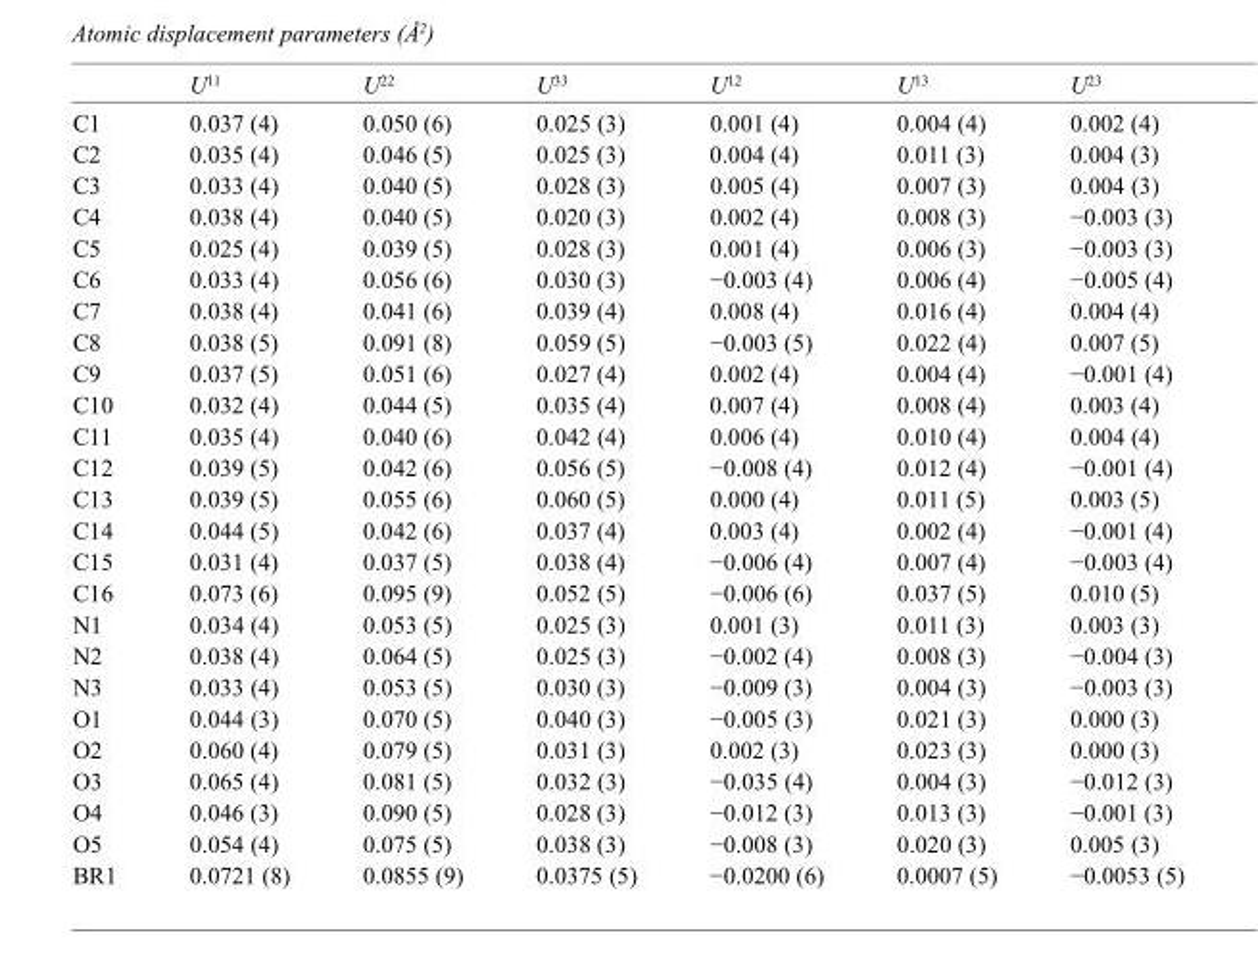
<table><thead><tr><td></td><td>U<sup>11</sup></td><td>U<sup>22</sup></td><td>U<sup>33</sup></td><td>U<sup>12</sup></td><td>U<sup>13</sup></td><td>U<sup>23</sup></td></tr></thead><tbody><tr><td>C1</td><td>0.037 (4)</td><td>0.050 (6)</td><td>0.025 (3)</td><td>0.001 (4)</td><td>0.004 (4)</td><td>0.002 (4)</td></tr><tr><td>C2</td><td>0.035 (4)</td><td>0.046 (5)</td><td>0.025 (3)</td><td>0.004 (4)</td><td>0.011 (3)</td><td>0.004 (3)</td></tr><tr><td>C3</td><td>0.033 (4)</td><td>0.040 (5)</td><td>0.028 (3)</td><td>0.005 (4)</td><td>0.007 (3)</td><td>0.004 (3)</td></tr><tr><td>C4</td><td>0.038 (4)</td><td>0.040 (5)</td><td>0.020 (3)</td><td>0.002 (4)</td><td>0.008 (3)</td><td>−0.003 (3)</td></tr><tr><td>C5</td><td>0.025 (4)</td><td>0.039 (5)</td><td>0.028 (3)</td><td>0.001 (4)</td><td>0.006 (3)</td><td>−0.003 (3)</td></tr><tr><td>C6</td><td>0.033 (4)</td><td>0.056 (6)</td><td>0.030 (3)</td><td>−0.003 (4)</td><td>0.006 (4)</td><td>−0.005 (4)</td></tr><tr><td>C7</td><td>0.038 (4)</td><td>0.041 (6)</td><td>0.039 (4)</td><td>0.008 (4)</td><td>0.016 (4)</td><td>0.004 (4)</td></tr><tr><td>C8</td><td>0.038 (5)</td><td>0.091 (8)</td><td>0.059 (5)</td><td>−0.003 (5)</td><td>0.022 (4)</td><td>0.007 (5)</td></tr><tr><td>C9</td><td>0.037 (5)</td><td>0.051 (6)</td><td>0.027 (4)</td><td>0.002 (4)</td><td>0.004 (4)</td><td>−0.001 (4)</td></tr><tr><td>C10</td><td>0.032 (4)</td><td>0.044 (5)</td><td>0.035 (4)</td><td>0.007 (4)</td><td>0.008 (4)</td><td>0.003 (4)</td></tr><tr><td>C11</td><td>0.035 (4)</td><td>0.040 (6)</td><td>0.042 (4)</td><td>0.006 (4)</td><td>0.010 (4)</td><td>0.004 (4)</td></tr><tr><td>C12</td><td>0.039 (5)</td><td>0.042 (6)</td><td>0.056 (5)</td><td>−0.008 (4)</td><td>0.012 (4)</td><td>−0.001 (4)</td></tr><tr><td>C13</td><td>0.039 (5)</td><td>0.055 (6)</td><td>0.060 (5)</td><td>0.000 (4)</td><td>0.011 (5)</td><td>0.003 (5)</td></tr><tr><td>C14</td><td>0.044 (5)</td><td>0.042 (6)</td><td>0.037 (4)</td><td>0.003 (4)</td><td>0.002 (4)</td><td>−0.001 (4)</td></tr><tr><td>C15</td><td>0.031 (4)</td><td>0.037 (5)</td><td>0.038 (4)</td><td>−0.006 (4)</td><td>0.007 (4)</td><td>−0.003 (4)</td></tr><tr><td>C16</td><td>0.073 (6)</td><td>0.095 (9)</td><td>0.052 (5)</td><td>−0.006 (6)</td><td>0.037 (5)</td><td>0.010 (5)</td></tr><tr><td>N1</td><td>0.034 (4)</td><td>0.053 (5)</td><td>0.025 (3)</td><td>0.001 (3)</td><td>0.011 (3)</td><td>0.003 (3)</td></tr><tr><td>N2</td><td>0.038 (4)</td><td>0.064 (5)</td><td>0.025 (3)</td><td>−0.002 (4)</td><td>0.008 (3)</td><td>−0.004 (3)</td></tr><tr><td>N3</td><td>0.033 (4)</td><td>0.053 (5)</td><td>0.030 (3)</td><td>−0.009 (3)</td><td>0.004 (3)</td><td>−0.003 (3)</td></tr><tr><td>O1</td><td>0.044 (3)</td><td>0.070 (5)</td><td>0.040 (3)</td><td>−0.005 (3)</td><td>0.021 (3)</td><td>0.000 (3)</td></tr><tr><td>O2</td><td>0.060 (4)</td><td>0.079 (5)</td><td>0.031 (3)</td><td>0.002 (3)</td><td>0.023 (3)</td><td>0.000 (3)</td></tr><tr><td>O3</td><td>0.065 (4)</td><td>0.081 (5)</td><td>0.032 (3)</td><td>−0.035 (4)</td><td>0.004 (3)</td><td>−0.012 (3)</td></tr><tr><td>O4</td><td>0.046 (3)</td><td>0.090 (5)</td><td>0.028 (3)</td><td>−0.012 (3)</td><td>0.013 (3)</td><td>−0.001 (3)</td></tr><tr><td>O5</td><td>0.054 (4)</td><td>0.075 (5)</td><td>0.038 (3)</td><td>−0.008 (3)</td><td>0.020 (3)</td><td>0.005 (3)</td></tr><tr><td>BR1</td><td>0.0721 (8)</td><td>0.0855 (9)</td><td>0.0375 (5)</td><td>−0.0200 (6)</td><td>0.0007 (5)</td><td>−0.0053 (5)</td></tr></tbody></table>